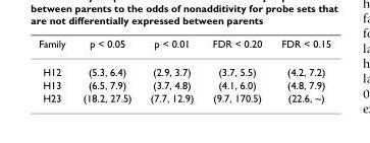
<table><thead><tr><td>Family</td><td>p &lt; 0.05</td><td>p &lt; 0.01</td><td>FDR &lt; 0.20</td><td>FDR &lt; 0.15</td></tr></thead><tbody><tr><td>H12</td><td>(5.3, 6.4)</td><td>(2.9, 3.7)</td><td>(3.7, 5.5)</td><td>(4.2, 7.2)</td></tr><tr><td>H13</td><td>(6.5, 7.9)</td><td>(3.7, 4.8)</td><td>(4.1, 6.0)</td><td>(4.8, 7.9)</td></tr><tr><td>H23</td><td>(18.2, 27.5)</td><td>(7.7, 12.9)</td><td>(9.7, 170.5)</td><td>(22.6, ~)</td></tr></tbody></table>